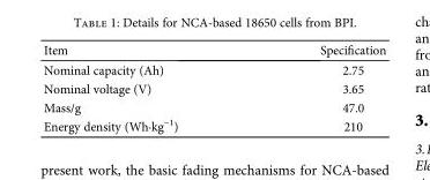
<table><thead><tr><td>Item</td><td>Specification</td></tr></thead><tbody><tr><td>Nominal capacity (Ah)</td><td>2.75</td></tr><tr><td>Nominal voltage (V)</td><td>3.65</td></tr><tr><td>Mass/g</td><td>47.0</td></tr><tr><td>Energy density (Wh·kg<sup>−1</sup>)</td><td>210</td></tr></tbody></table>